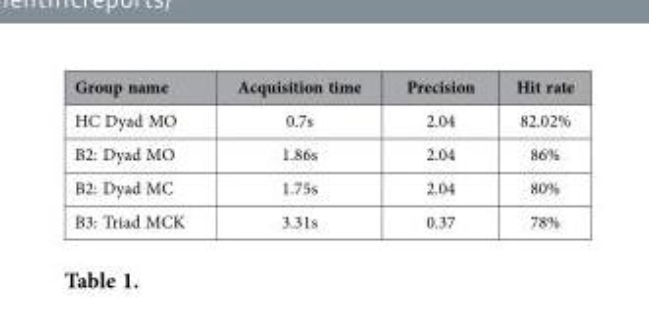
<table><thead><tr><td>Group name</td><td>Acquisition time</td><td>Precision</td><td>Hit rate</td></tr></thead><tbody><tr><td>HC Dyad MO</td><td>0.7s</td><td>2.04</td><td>82.02%</td></tr><tr><td>B2: Dyad MO</td><td>1.86s</td><td>2.04</td><td>86%</td></tr><tr><td>B2: Dyad MC</td><td>1.75s</td><td>2.04</td><td>80%</td></tr><tr><td>B3: Triad MCK</td><td>3.31s</td><td>0.37</td><td>78%</td></tr></tbody></table>